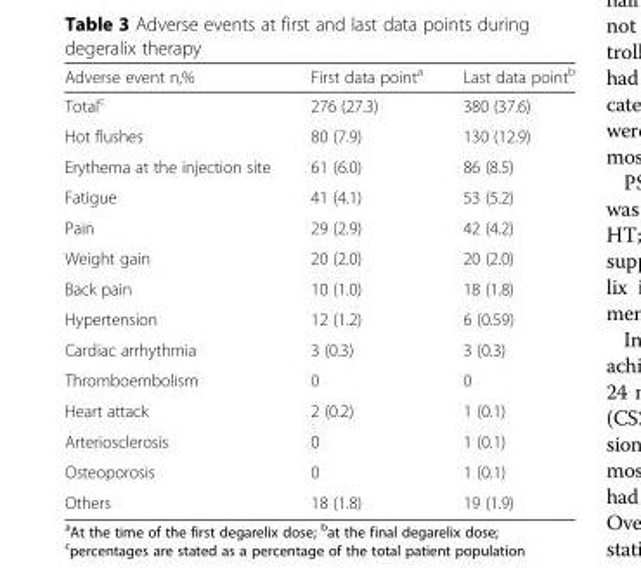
<table><thead><tr><td>Adverse event n,%</td><td>First data point<sup>a</sup></td><td>Last data point<sup>b</sup></td></tr></thead><tbody><tr><td>Total<sup>c</sup></td><td>276 (27.3)</td><td>380 (37.6)</td></tr><tr><td>Hot flushes</td><td>80 (7.9)</td><td>130 (12.9)</td></tr><tr><td>Erythema at the injection site</td><td>61 (6.0)</td><td>86 (8.5)</td></tr><tr><td>Fatigue</td><td>41 (4.1)</td><td>53 (5.2)</td></tr><tr><td>Pain</td><td>29 (2.9)</td><td>42 (4.2)</td></tr><tr><td>Weight gain</td><td>20 (2.0)</td><td>20 (2.0)</td></tr><tr><td>Back pain</td><td>10 (1.0)</td><td>18 (1.8)</td></tr><tr><td>Hypertension</td><td>12 (1.2)</td><td>6 (0.59)</td></tr><tr><td>Cardiac arrhythmia</td><td>3 (0.3)</td><td>3 (0.3)</td></tr><tr><td>Thromboembolism</td><td>0</td><td>0</td></tr><tr><td>Heart attack</td><td>2 (0.2)</td><td>1 (0.1)</td></tr><tr><td>Arteriosclerosis</td><td>0</td><td>1 (0.1)</td></tr><tr><td>Osteoporosis</td><td>0</td><td>1 (0.1)</td></tr><tr><td>Others</td><td>18 (1.8)</td><td>19 (1.9)</td></tr></tbody></table>